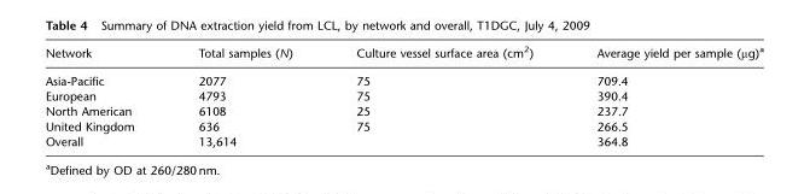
<table><thead><tr><td>Network</td><td>Total samples (N)</td><td>Culture vessel surface area (cm<sup>2</sup>)</td><td>Average yield per sample (µg)<sup>a</sup></td></tr></thead><tbody><tr><td>Asia-Pacific</td><td>2077</td><td>75</td><td>709.4</td></tr><tr><td>European</td><td>4793</td><td>75</td><td>390.4</td></tr><tr><td>North American</td><td>6108</td><td>25</td><td>237.7</td></tr><tr><td>United Kingdom</td><td>636</td><td>75</td><td>266.5</td></tr><tr><td>Overall</td><td>13,614</td><td></td><td>364.8</td></tr></tbody></table>